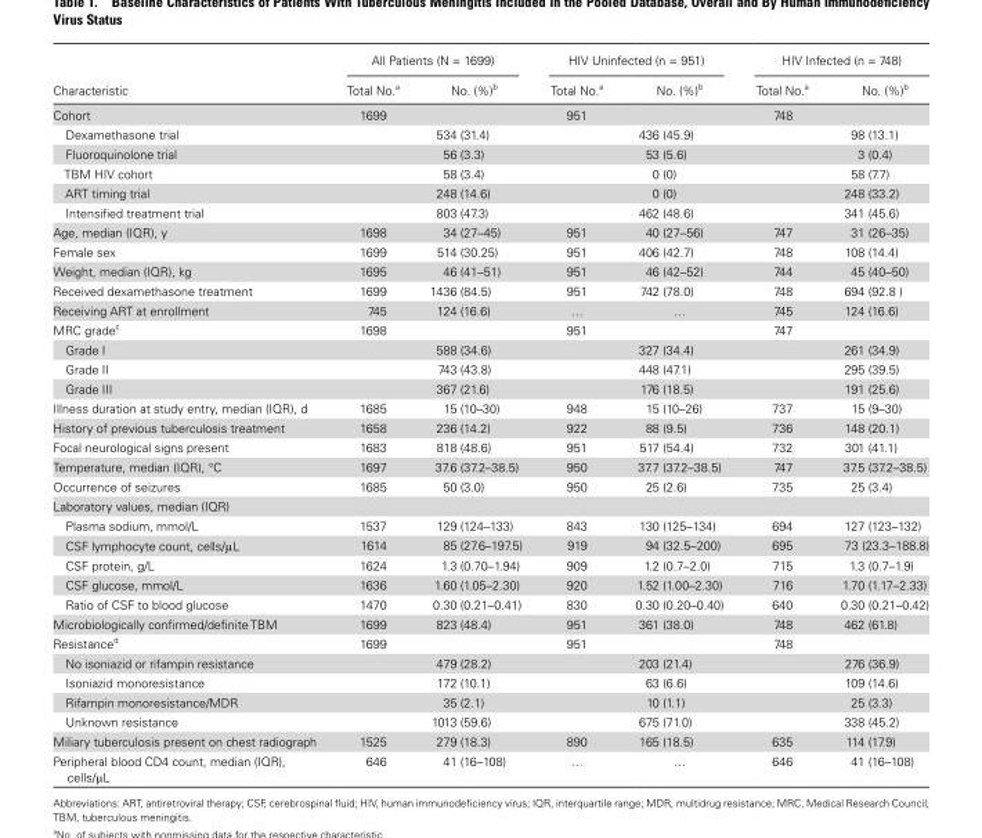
<table><thead><tr><td rowspan="2">Characteristic</td><td colspan="2">All Patients (N = 1699)</td><td colspan="2">HIV Uninfected (n = 951)</td><td colspan="2">HIV Infected (n = 748)</td></tr><tr><td>Total No.<sup>a</sup></td><td>No. (%)<sup>b</sup></td><td>Total No.<sup>a</sup></td><td>No. (%)<sup>b</sup></td><td>Total No.<sup>a</sup></td><td>No. (%)<sup>b</sup></td></tr></thead><tbody><tr><td>Cohort</td><td>1699</td><td></td><td>951</td><td></td><td>748</td><td></td></tr><tr><td>Dexamethasone trial</td><td></td><td>534 (31.4)</td><td></td><td>436 (45.9)</td><td></td><td>98 (13.1)</td></tr><tr><td>Fluoroquinolone trial</td><td></td><td>56 (3.3)</td><td></td><td>53 (5.6)</td><td></td><td>3 (0.4)</td></tr><tr><td>TBM HIV cohort</td><td></td><td>58 (3.4)</td><td></td><td>0 (0)</td><td></td><td>58 (7.7)</td></tr><tr><td>ART timing trial</td><td></td><td>248 (14.6)</td><td></td><td>0 (0)</td><td></td><td>248 (33.2)</td></tr><tr><td>Intensified treatment trial</td><td></td><td>803 (47.3)</td><td></td><td>462 (48.6)</td><td></td><td>341 (45.6)</td></tr><tr><td>Age, median (IQR), y</td><td>1698</td><td>34 (27–45)</td><td>951</td><td>40 (27–56)</td><td>747</td><td>31 (26–35)</td></tr><tr><td>Female sex</td><td>1699</td><td>514 (30.25)</td><td>951</td><td>406 (42.7)</td><td>748</td><td>108 (14.4)</td></tr><tr><td>Weight, median (IQR), kg</td><td>1695</td><td>46 (41–51)</td><td>951</td><td>46 (42–52)</td><td>744</td><td>45 (40–50)</td></tr><tr><td>Received dexamethasone treatment</td><td>1699</td><td>1436 (84.5)</td><td>951</td><td>742 (78.0)</td><td>748</td><td>694 (92.8 )</td></tr><tr><td>Receiving ART at enrollment</td><td>745</td><td>124 (16.6)</td><td>…</td><td>…</td><td>745</td><td>124 (16.6)</td></tr><tr><td>MRC grade<sup>c</sup></td><td>1698</td><td></td><td>951</td><td></td><td>747</td><td></td></tr><tr><td>Grade I</td><td></td><td>588 (34.6)</td><td></td><td>327 (34.4)</td><td></td><td>261 (34.9)</td></tr><tr><td>Grade II</td><td></td><td>743 (43.8)</td><td></td><td>448 (47.1)</td><td></td><td>295 (39.5)</td></tr><tr><td>Grade III</td><td></td><td>367 (21.6)</td><td></td><td>176 (18.5)</td><td></td><td>191 (25.6)</td></tr><tr><td>Illness duration at study entry, median (IQR), d</td><td>1685</td><td>15 (10–30)</td><td>948</td><td>15 (10–26)</td><td>737</td><td>15 (9–30)</td></tr><tr><td>History of previous tuberculosis treatment</td><td>1658</td><td>236 (14.2)</td><td>922</td><td>88 (9.5)</td><td>736</td><td>148 (20.1)</td></tr><tr><td>Focal neurological signs present</td><td>1683</td><td>818 (48.6)</td><td>951</td><td>517 (54.4)</td><td>732</td><td>301 (41.1)</td></tr><tr><td>Temperature, median (IQR), °C</td><td>1697</td><td>37.6 (37.2–38.5)</td><td>950</td><td>37.7 (37.2–38.5)</td><td>747</td><td>37.5 (37.2–38.5)</td></tr><tr><td>Occurrence of seizures</td><td>1685</td><td>50 (3.0)</td><td>950</td><td>25 (2.6)</td><td>735</td><td>25 (3.4)</td></tr><tr><td colspan="7">Laboratory values, median (IQR)</td></tr><tr><td>Plasma sodium, mmol/L</td><td>1537</td><td>129 (124–133)</td><td>843</td><td>130 (125–134)</td><td>694</td><td>127 (123–132)</td></tr><tr><td>CSF lymphocyte count, cells/μL</td><td>1614</td><td>85 (27.6–197.5)</td><td>919</td><td>94 (32.5–200)</td><td>695</td><td>73 (23.3–188.8)</td></tr><tr><td>CSF protein, g/L</td><td>1624</td><td>1.3 (0.70–1.94)</td><td>909</td><td>1.2 (0.7–2.0)</td><td>715</td><td>1.3 (0.7–1.9)</td></tr><tr><td>CSF glucose, mmol/L</td><td>1636</td><td>1.60 (1.05–2.30)</td><td>920</td><td>1.52 (1.00–2.30)</td><td>716</td><td>1.70 (1.17–2.33)</td></tr><tr><td>Ratio of CSF to blood glucose</td><td>1470</td><td>0.30 (0.21–0.41)</td><td>830</td><td>0.30 (0.20–0.40)</td><td>640</td><td>0.30 (0.21–0.42)</td></tr><tr><td>Microbiologically confirmed/definite TBM</td><td>1699</td><td>823 (48.4)</td><td>951</td><td>361 (38.0)</td><td>748</td><td>462 (61.8)</td></tr><tr><td>Resistance<sup>d</sup></td><td>1699</td><td></td><td>951</td><td></td><td>748</td><td></td></tr><tr><td>No isoniazid or rifampin resistance</td><td></td><td>479 (28.2)</td><td></td><td>203 (21.4)</td><td></td><td>276 (36.9)</td></tr><tr><td>Isoniazid monoresistance</td><td></td><td>172 (10.1)</td><td></td><td>63 (6.6)</td><td></td><td>109 (14.6)</td></tr><tr><td>Rifampin monoresistance/MDR</td><td></td><td>35 (2.1)</td><td></td><td>10 (1.1)</td><td></td><td>25 (3.3)</td></tr><tr><td>Unknown resistance</td><td></td><td>1013 (59.6)</td><td></td><td>675 (71.0)</td><td></td><td>338 (45.2)</td></tr><tr><td>Miliary tuberculosis present on chest radiograph</td><td>1525</td><td>279 (18.3)</td><td>890</td><td>165 (18.5)</td><td>635</td><td>114 (17.9)</td></tr><tr><td>Peripheral blood CD4 count, median (IQR), cells/μL</td><td>646</td><td>41 (16–108)</td><td>…</td><td>…</td><td>646</td><td>41 (16–108)</td></tr></tbody></table>